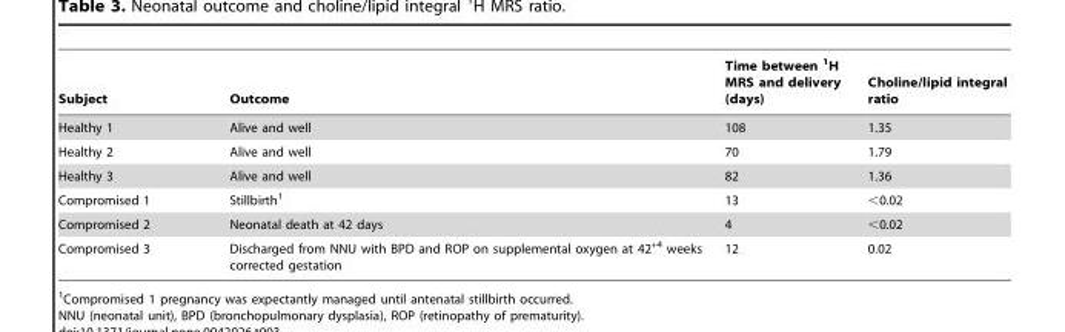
<table><thead><tr><td>Subject</td><td>Outcome</td><td>Time between 1H MRS and delivery (days)</td><td>Choline/lipid integral ratio</td></tr></thead><tbody><tr><td>Healthy 1</td><td>Alive and well</td><td>108</td><td>1.35</td></tr><tr><td>Healthy 2</td><td>Alive and well</td><td>70</td><td>1.79</td></tr><tr><td>Healthy 3</td><td>Alive and well</td><td>82</td><td>1.36</td></tr><tr><td>Compromised 1</td><td>Stillbirth<sup>1</sup></td><td>13</td><td>&lt;0.02</td></tr><tr><td>Compromised 2</td><td>Neonatal death at 42 days</td><td>4</td><td>&lt;0.02</td></tr><tr><td>Compromised 3</td><td>Discharged from NNU with BPD and ROP on supplemental oxygen at 42<sup>+4</sup> weeks corrected gestation</td><td>12</td><td>0.02</td></tr></tbody></table>